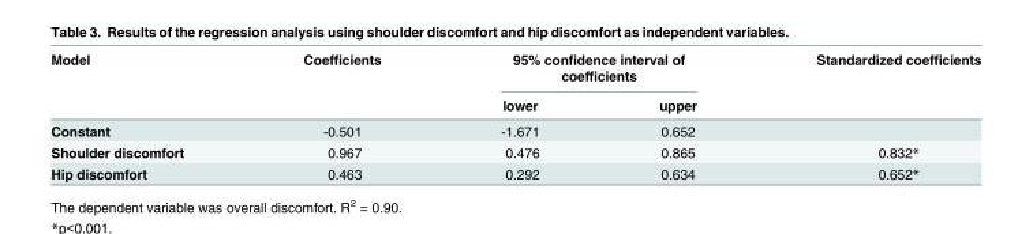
<table><thead><tr><td rowspan="2">Model</td><td rowspan="2">Coefficients</td><td colspan="2">95% confidence interval of coefficients</td><td rowspan="2">Standardized coefficients</td></tr><tr><td>lower</td><td>upper</td></tr></thead><tbody><tr><td>Constant</td><td>-0.501</td><td>-1.671</td><td>0.652</td><td></td></tr><tr><td>Shoulder discomfort</td><td>0.967</td><td>0.476</td><td>0.865</td><td>0.832*</td></tr><tr><td>Hip discomfort</td><td>0.463</td><td>0.292</td><td>0.634</td><td>0.652*</td></tr></tbody></table>